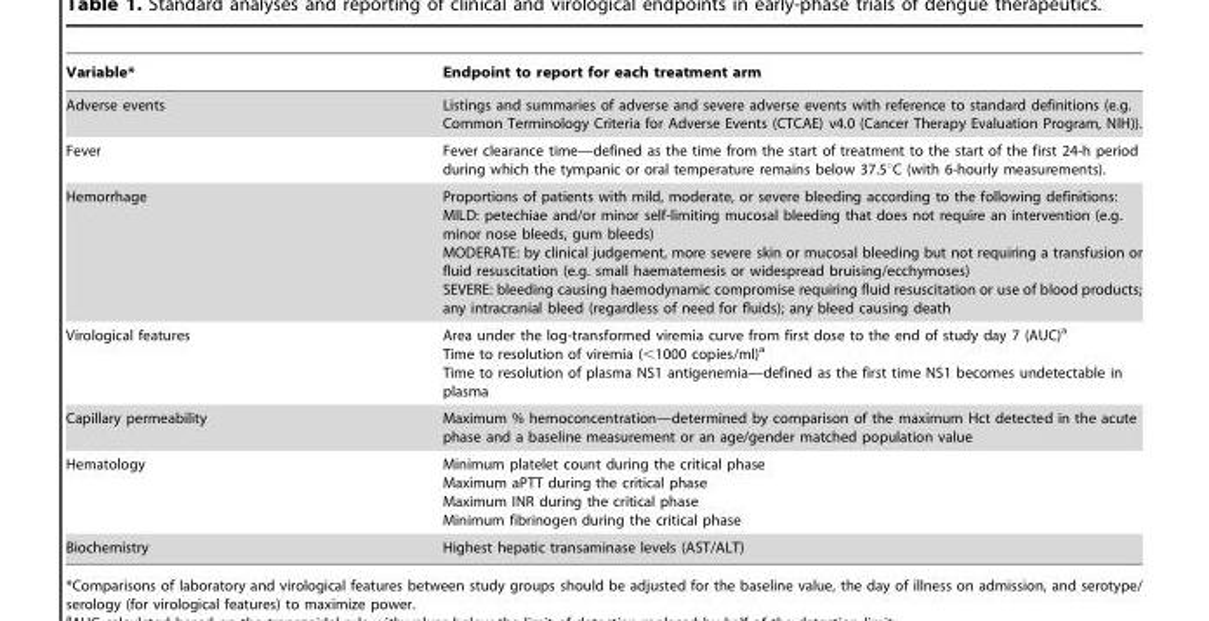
<table><thead><tr><td>Variable*</td><td>Endpoint to report for each treatment arm</td></tr></thead><tbody><tr><td>Adverse events</td><td>Listings and summaries of adverse and severe adverse events with reference to standard definitions (e.g. Common Terminology Criteria for Adverse Events (CTCAE) v4.0 (Cancer Therapy Evaluation Program, NIH)).</td></tr><tr><td>Fever</td><td>Fever clearance time—defined as the time from the start of treatment to the start of the first 24-h period during which the tympanic or oral temperature remains below 37.5°C (with 6-hourly measurements).</td></tr><tr><td>Hemorrhage</td><td>Proportions of patients with mild, moderate, or severe bleeding according to the following definitions: MILD: petechiae and/or minor self-limiting mucosal bleeding that does not require an intervention (e.g. minor nose bleeds, gum bleeds) MODERATE: by clinical judgement, more severe skin or mucosal bleeding but not requiring a transfusion or fluid resuscitation (e.g. small haematemesis or widespread bruising/ecchymoses) SEVERE: bleeding causing haemodynamic compromise requiring fluid resuscitation or use of blood products; any intracranial bleed (regardless of need for fluids); any bleed causing death</td></tr><tr><td>Virological features</td><td>Area under the log-transformed viremia curve from first dose to the end of study day 7 (AUC)<sup>a</sup> Time to resolution of viremia (&lt;1000 copies/ml)<sup>a</sup> Time to resolution of plasma NS1 antigenemia—defined as the first time NS1 becomes undetectable in plasma</td></tr><tr><td>Capillary permeability</td><td>Maximum % hemoconcentration—determined by comparison of the maximum Hct detected in the acute phase and a baseline measurement or an age/gender matched population value</td></tr><tr><td>Hematology</td><td>Minimum platelet count during the critical phase Maximum aPTT during the critical phase Maximum INR during the critical phase Minimum fibrinogen during the critical phase</td></tr><tr><td>Biochemistry</td><td>Highest hepatic transaminase levels (AST/ALT)</td></tr></tbody></table>